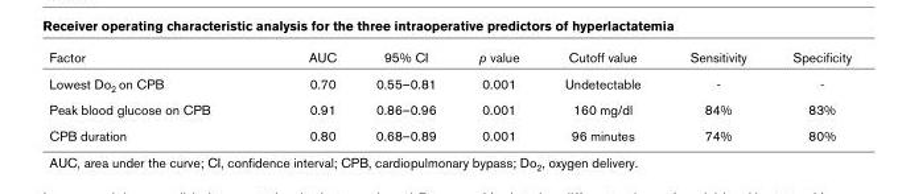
<table><thead><tr><td>Factor</td><td>AUC</td><td>95% CI</td><td>p value</td><td>Cutoff value</td><td>Sensitivity</td><td>Specificity</td></tr></thead><tbody><tr><td>Lowest Do2 on CPB</td><td>0.70</td><td>0.55–0.81</td><td>0.001</td><td>Undetectable</td><td>-</td><td>-</td></tr><tr><td>Peak blood glucose on CPB</td><td>0.91</td><td>0.86–0.96</td><td>0.001</td><td>160 mg/dl</td><td>84%</td><td>83%</td></tr><tr><td>CPB duration</td><td>0.80</td><td>0.68–0.89</td><td>0.001</td><td>96 minutes</td><td>74%</td><td>80%</td></tr></tbody></table>